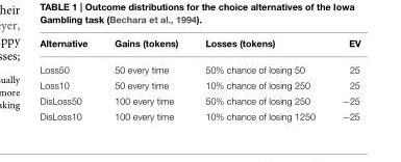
<table><thead><tr><td>Alternative</td><td>Gains (tokens)</td><td>Losses (tokens)</td><td>EV</td></tr></thead><tbody><tr><td>Loss50</td><td>50 every time</td><td>50% chance of losing 50</td><td>25</td></tr><tr><td>Loss10</td><td>50 every time</td><td>10% chance of losing 250</td><td>25</td></tr><tr><td>DisLoss50</td><td>100 every time</td><td>50% chance of losing 250</td><td>−25</td></tr><tr><td>DisLoss10</td><td>100 every time</td><td>10% chance of losing 1250</td><td>−25</td></tr></tbody></table>